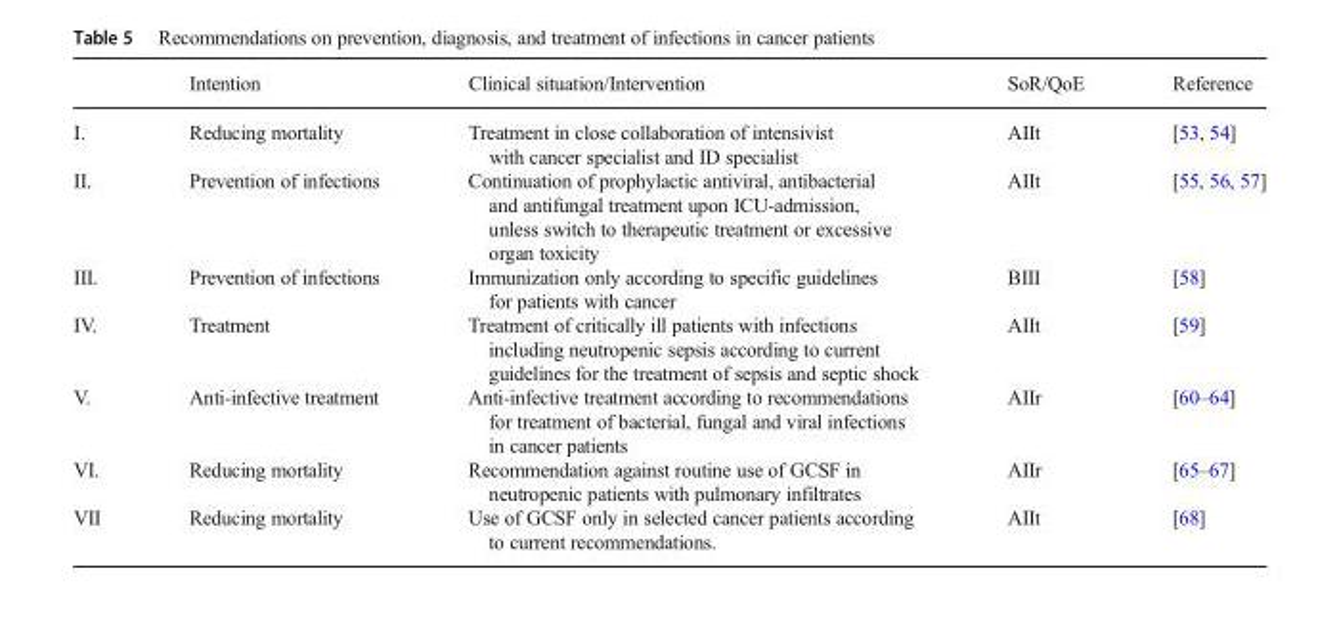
<table><thead><tr><td></td><td>Intention</td><td>Clinical situation/Intervention</td><td>SoR/QoE</td><td>Reference</td></tr></thead><tbody><tr><td>I.</td><td>Reducing mortality</td><td>Treatment in close collaboration of intensivist with cancer specialist and ID specialist</td><td>AIIt</td><td>[53, 54]</td></tr><tr><td>II.</td><td>Prevention of infections</td><td>Continuation of prophylactic antiviral, antibacterial and antifungal treatment upon ICU-admission, unless switch to therapeutic treatment or excessive organ toxicity</td><td>AIIt</td><td>[55, 56, 57]</td></tr><tr><td>III.</td><td>Prevention of infections</td><td>Immunization only according to specific guidelines for patients with cancer</td><td>BIII</td><td>[58]</td></tr><tr><td>IV.</td><td>Treatment</td><td>Treatment of critically ill patients with infections including neutropenic sepsis according to current guidelines for the treatment of sepsis and septic shock</td><td>AIIt</td><td>[59]</td></tr><tr><td>V.</td><td>Anti-infective treatment</td><td>Anti-infective treatment according to recommendations for treatment of bacterial, fungal and viral infections in cancer patients</td><td>AIIr</td><td>[60–64]</td></tr><tr><td>VI.</td><td>Reducing mortality</td><td>Recommendation against routine use of GCSF in neutropenic patients with pulmonary infiltrates</td><td>AIIr</td><td>[65–67]</td></tr><tr><td>VII</td><td>Reducing mortality</td><td>Use of GCSF only in selected cancer patients according to current recommendations.</td><td>AIIt</td><td>[68]</td></tr></tbody></table>